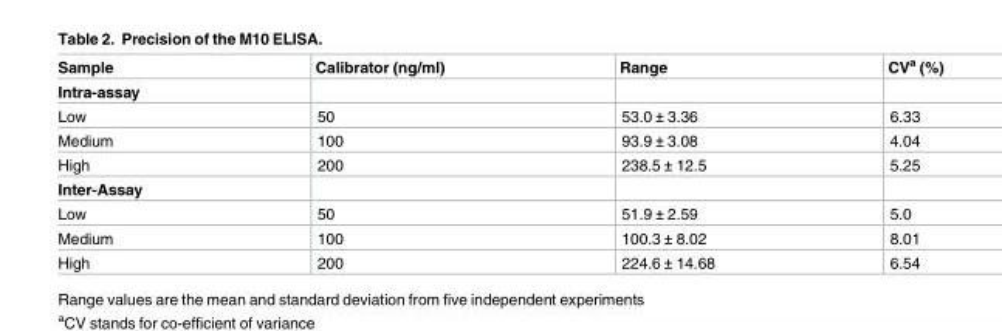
<table><thead><tr><td>Sample</td><td>Calibrator (ng/ml)</td><td>Range</td><td>CV<sup>a</sup> (%)</td></tr></thead><tbody><tr><td colspan="4">Intra-assay</td></tr><tr><td>Low</td><td>50</td><td>53.0 ± 3.36</td><td>6.33</td></tr><tr><td>Medium</td><td>100</td><td>93.9 ± 3.08</td><td>4.04</td></tr><tr><td>High</td><td>200</td><td>238.5 ± 12.5</td><td>5.25</td></tr><tr><td colspan="4">Inter-Assay</td></tr><tr><td>Low</td><td>50</td><td>51.9 ± 2.59</td><td>5.0</td></tr><tr><td>Medium</td><td>100</td><td>100.3 ± 8.02</td><td>8.01</td></tr><tr><td>High</td><td>200</td><td>224.6 ± 14.68</td><td>6.54</td></tr></tbody></table>